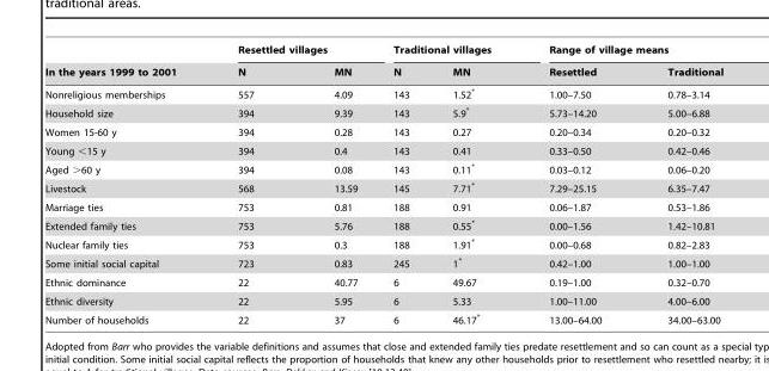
<table><thead><tr><td rowspan="2">In the years 1999 to 2001</td><td colspan="2">Resettled villages</td><td colspan="2">Traditional villages</td><td colspan="2">Range of village means</td></tr><tr><td>N</td><td>MN</td><td>N</td><td>MN</td><td>Resettled</td><td>Traditional</td></tr></thead><tbody><tr><td>Nonreligious memberships</td><td>557</td><td>4.09</td><td>143</td><td>1.52*</td><td>1.00–7.50</td><td>0.78–3.14</td></tr><tr><td>Household size</td><td>394</td><td>9.39</td><td>143</td><td>5.9*</td><td>5.73–14.20</td><td>5.00–6.88</td></tr><tr><td>Women 15-60 y</td><td>394</td><td>0.28</td><td>143</td><td>0.27</td><td>0.20–0.34</td><td>0.20–0.32</td></tr><tr><td>Young &lt;15 y</td><td>394</td><td>0.4</td><td>143</td><td>0.41</td><td>0.33–0.50</td><td>0.42–0.46</td></tr><tr><td>Aged &gt;60 y</td><td>394</td><td>0.08</td><td>143</td><td>0.11*</td><td>0.03–0.12</td><td>0.06–0.20</td></tr><tr><td>Livestock</td><td>568</td><td>13.59</td><td>145</td><td>7.71*</td><td>7.29–25.15</td><td>6.35–7.47</td></tr><tr><td>Marriage ties</td><td>753</td><td>0.81</td><td>188</td><td>0.91</td><td>0.06–1.87</td><td>0.53–1.86</td></tr><tr><td>Extended family ties</td><td>753</td><td>5.76</td><td>188</td><td>0.55*</td><td>0.00–1.56</td><td>1.42–10.81</td></tr><tr><td>Nuclear family ties</td><td>753</td><td>0.3</td><td>188</td><td>1.91*</td><td>0.00–0.68</td><td>0.82–2.83</td></tr><tr><td>Some initial social capital</td><td>723</td><td>0.83</td><td>245</td><td>1*</td><td>0.42–1.00</td><td>1.00–1.00</td></tr><tr><td>Ethnic dominance</td><td>22</td><td>40.77</td><td>6</td><td>49.67</td><td>0.19–1.00</td><td>0.32–0.70</td></tr><tr><td>Ethnic diversity</td><td>22</td><td>5.95</td><td>6</td><td>5.33</td><td>1.00–11.00</td><td>4.00–6.00</td></tr><tr><td>Number of households</td><td>22</td><td>37</td><td>6</td><td>46.17*</td><td>13.00–64.00</td><td>34.00–63.00</td></tr></tbody></table>